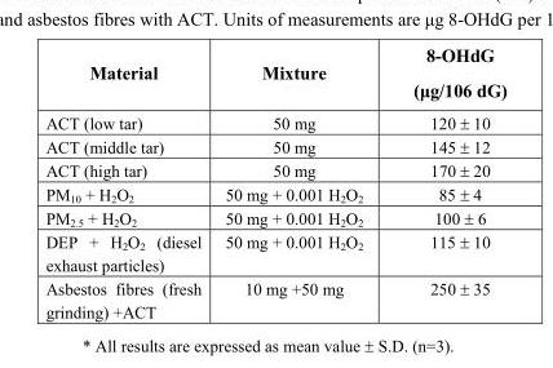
<table><thead><tr><td>Material</td><td>Mixture</td><td>8-OHdG (μg/106 dG)</td></tr></thead><tbody><tr><td>ACT (low tar)</td><td>50 mg</td><td>120 ± 10</td></tr><tr><td>ACT (middle tar)</td><td>50 mg</td><td>145 ± 12</td></tr><tr><td>ACT (high tar)</td><td>50 mg</td><td>170 ± 20</td></tr><tr><td>PM<sub>10</sub> + H<sub>2</sub>O<sub>2</sub></td><td>50 mg + 0.001 H<sub>2</sub>O<sub>2</sub></td><td>85 ± 4</td></tr><tr><td>PM<sub>2.5</sub> + H<sub>2</sub>O<sub>2</sub></td><td>50 mg + 0.001 H<sub>2</sub>O<sub>2</sub></td><td>100 ± 6</td></tr><tr><td>DEP + H<sub>2</sub>O<sub>2</sub> (diesel exhaust particles)</td><td>50 mg + 0.001 H<sub>2</sub>O<sub>2</sub></td><td>115 ± 10</td></tr><tr><td>Asbestos fibres (fresh grinding) +ACT</td><td>10 mg +50 mg</td><td>250 ± 35</td></tr></tbody></table>